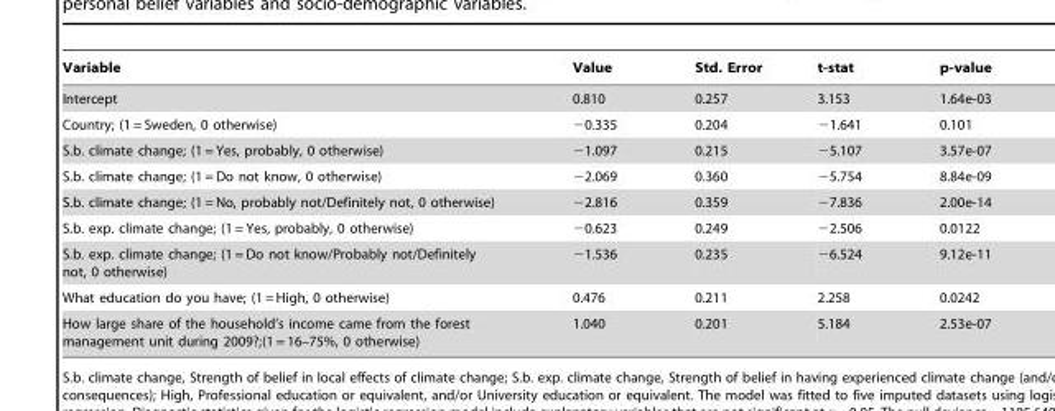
<table><thead><tr><td>Variable</td><td>Value</td><td>Std. Error</td><td>t-stat</td><td>p-value</td></tr></thead><tbody><tr><td>Intercept</td><td>0.810</td><td>0.257</td><td>3.153</td><td>1.64e-03</td></tr><tr><td>Country; (1 = Sweden, 0 otherwise)</td><td>−0.335</td><td>0.204</td><td>−1.641</td><td>0.101</td></tr><tr><td>S.b. climate change; (1 = Yes, probably, 0 otherwise)</td><td>−1.097</td><td>0.215</td><td>−5.107</td><td>3.57e-07</td></tr><tr><td>S.b. climate change; (1 = Do not know, 0 otherwise)</td><td>−2.069</td><td>0.360</td><td>−5.754</td><td>8.84e-09</td></tr><tr><td>S.b. climate change; (1 = No, probably not/Definitely not, 0 otherwise)</td><td>−2.816</td><td>0.359</td><td>−7.836</td><td>2.00e-14</td></tr><tr><td>S.b. exp. climate change; (1 = Yes, probably, 0 otherwise)</td><td>−0.623</td><td>0.249</td><td>−2.506</td><td>0.0122</td></tr><tr><td>S.b. exp. climate change; (1 = Do not know/Probably not/Definitely not, 0 otherwise)</td><td>−1.536</td><td>0.235</td><td>−6.524</td><td>9.12e-11</td></tr><tr><td>What education do you have; (1 = High, 0 otherwise)</td><td>0.476</td><td>0.211</td><td>2.258</td><td>0.0242</td></tr><tr><td>How large share of the household’s income came from the forest management unit during 2009?;(1 = 16–75%, 0 otherwise)</td><td>1.040</td><td>0.201</td><td>5.184</td><td>2.53e-07</td></tr></tbody></table>